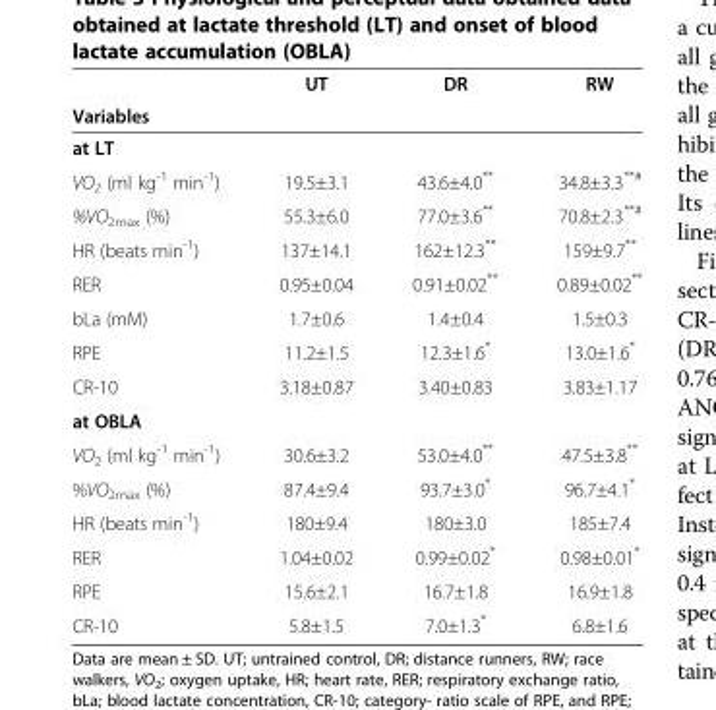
<table><thead><tr><td rowspan="2">Variables</td><td rowspan="2">UT</td><td rowspan="2">DR</td><td rowspan="2">RW</td></tr><tr></tr></thead><tbody><tr><td colspan="4">at LT</td></tr><tr><td>VO<sub>2</sub> (ml kg<sup>-1</sup> min<sup>-1</sup>)</td><td>19.5±3.1</td><td>43.6±4.0**</td><td>34.8±3.3<sup>**#</sup></td></tr><tr><td>%VO<sub>2max</sub> (%)</td><td>55.3±6.0</td><td>77.0±3.6**</td><td>70.8±2.3<sup>**#</sup></td></tr><tr><td>HR (beats min<sup>-1</sup>)</td><td>137±14.1</td><td>162±12.3**</td><td>159±9.7**</td></tr><tr><td>RER</td><td>0.95±0.04</td><td>0.91±0.02**</td><td>0.89±0.02**</td></tr><tr><td>bLa (mM)</td><td>1.7±0.6</td><td>1.4±0.4</td><td>1.5±0.3</td></tr><tr><td>RPE</td><td>11.2±1.5</td><td>12.3±1.6*</td><td>13.0±1.6*</td></tr><tr><td>CR-10</td><td>3.18±0.87</td><td>3.40±0.83</td><td>3.83±1.17</td></tr><tr><td colspan="4">at OBLA</td></tr><tr><td>VO<sub>2</sub> (ml kg<sup>-1</sup> min<sup>-1</sup>)</td><td>30.6±3.2</td><td>53.0±4.0**</td><td>47.5±3.8**</td></tr><tr><td>%VO<sub>2max</sub> (%)</td><td>87.4±9.4</td><td>93.7±3.0*</td><td>96.7±4.1*</td></tr><tr><td>HR (beats min<sup>-1</sup>)</td><td>180±9.4</td><td>180±3.0</td><td>185±7.4</td></tr><tr><td>RER</td><td>1.04±0.02</td><td>0.99±0.02*</td><td>0.98±0.01*</td></tr><tr><td>RPE</td><td>15.6±2.1</td><td>16.7±1.8</td><td>16.9±1.8</td></tr><tr><td>CR-10</td><td>5.8±1.5</td><td>7.0±1.3*</td><td>6.8±1.6</td></tr></tbody></table>